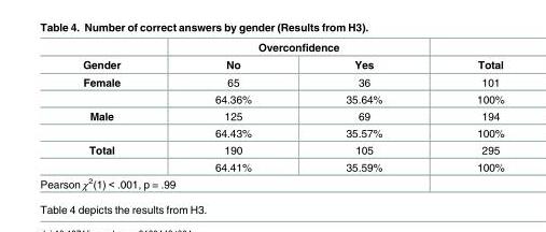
<table><thead><tr><td rowspan="2">Gender</td><td colspan="2">Overconfidence</td><td rowspan="2">Total</td></tr><tr><td>No</td><td>Yes</td></tr></thead><tbody><tr><td rowspan="2">Female</td><td>65</td><td>36</td><td>101</td></tr><tr><td>64.36%</td><td>35.64%</td><td>100%</td></tr><tr><td rowspan="2">Male</td><td>125</td><td>69</td><td>194</td></tr><tr><td>64.43%</td><td>35.57%</td><td>100%</td></tr><tr><td rowspan="2">Total</td><td>190</td><td>105</td><td>295</td></tr><tr><td>64.41%</td><td>35.59%</td><td>100%</td></tr><tr><td colspan="3">Pearson χ<sup>2</sup>(1) &lt; .001, p = .99</td><td></td></tr></tbody></table>